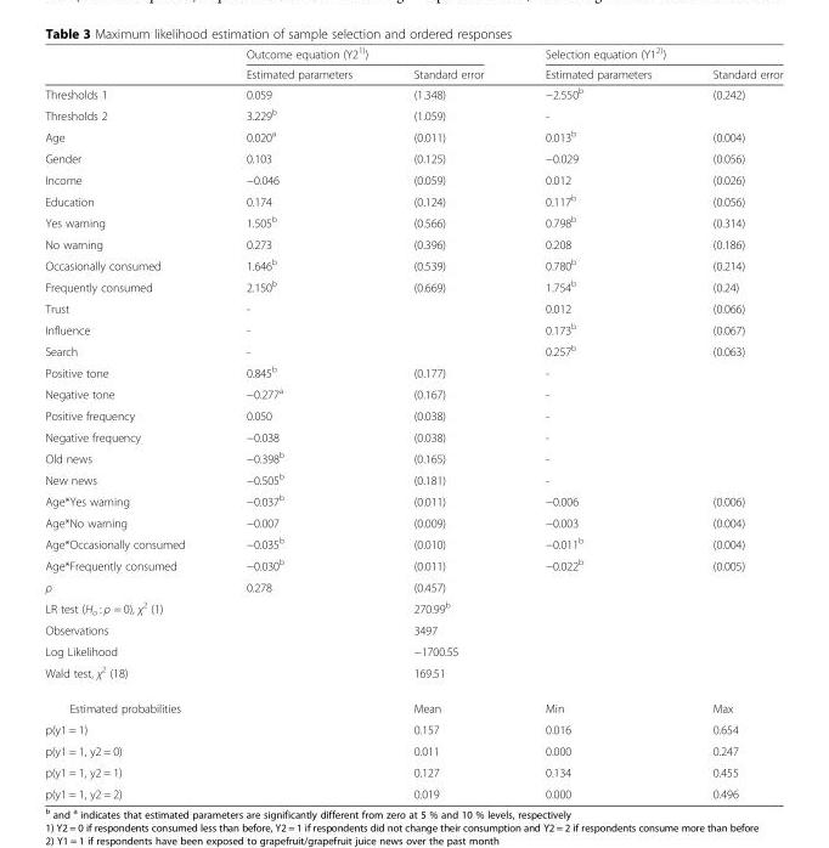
<table><thead><tr><td rowspan="2"></td><td colspan="2">Outcome equation (Y2<sup>1)</sup>)</td><td colspan="2">Selection equation (Y1<sup>2)</sup>)</td></tr><tr><td>Estimated parameters</td><td>Standard error</td><td>Estimated parameters</td><td>Standard error</td></tr></thead><tbody><tr><td>Thresholds 1</td><td>0.059</td><td>(1.348)</td><td>−2.550<sup>b</sup></td><td>(0.242)</td></tr><tr><td>Thresholds 2</td><td>3.229<sup>b</sup></td><td>(1.059)</td><td>-</td><td></td></tr><tr><td>Age</td><td>0.020<sup>a</sup></td><td>(0.011)</td><td>0.013<sup>b</sup></td><td>(0.004)</td></tr><tr><td>Gender</td><td>0.103</td><td>(0.125)</td><td>−0.029</td><td>(0.056)</td></tr><tr><td>Income</td><td>−0.046</td><td>(0.059)</td><td>0.012</td><td>(0.026)</td></tr><tr><td>Education</td><td>0.174</td><td>(0.124)</td><td>0.117<sup>b</sup></td><td>(0.056)</td></tr><tr><td>Yes warning</td><td>1.505<sup>b</sup></td><td>(0.566)</td><td>0.798<sup>b</sup></td><td>(0.314)</td></tr><tr><td>No warning</td><td>0.273</td><td>(0.396)</td><td>0.208</td><td>(0.186)</td></tr><tr><td>Occasionally consumed</td><td>1.646<sup>b</sup></td><td>(0.539)</td><td>0.780<sup>b</sup></td><td>(0.214)</td></tr><tr><td>Frequently consumed</td><td>2.150<sup>b</sup></td><td>(0.669)</td><td>1.754<sup>b</sup></td><td>(0.24)</td></tr><tr><td>Trust</td><td>-</td><td></td><td>0.012</td><td>(0.066)</td></tr><tr><td>Influence</td><td>-</td><td></td><td>0.173<sup>b</sup></td><td>(0.067)</td></tr><tr><td>Search</td><td>-</td><td></td><td>0.257<sup>b</sup></td><td>(0.063)</td></tr><tr><td>Positive tone</td><td>0.845<sup>b</sup></td><td>(0.177)</td><td>-</td><td></td></tr><tr><td>Negative tone</td><td>−0.277<sup>a</sup></td><td>(0.167)</td><td>-</td><td></td></tr><tr><td>Positive frequency</td><td>0.050</td><td>(0.038)</td><td>-</td><td></td></tr><tr><td>Negative frequency</td><td>−0.038</td><td>(0.038)</td><td>-</td><td></td></tr><tr><td>Old news</td><td>−0.398<sup>b</sup></td><td>(0.165)</td><td>-</td><td></td></tr><tr><td>New news</td><td>−0.505<sup>b</sup></td><td>(0.181)</td><td>-</td><td></td></tr><tr><td>Age*Yes warning</td><td>−0.037<sup>b</sup></td><td>(0.011)</td><td>−0.006</td><td>(0.006)</td></tr><tr><td>Age*No warning</td><td>−0.007</td><td>(0.009)</td><td>−0.003</td><td>(0.004)</td></tr><tr><td>Age*Occasionally consumed</td><td>−0.035<sup>b</sup></td><td>(0.010)</td><td>−0.011<sup>b</sup></td><td>(0.004)</td></tr><tr><td>Age*Frequently consumed</td><td>−0.030<sup>b</sup></td><td>(0.011)</td><td>−0.022<sup>b</sup></td><td>(0.005)</td></tr><tr><td>ρ</td><td>0.278</td><td>(0.457)</td><td></td><td></td></tr><tr><td>LR test (H<sub>o</sub> : ρ = 0), χ<sup>2</sup> (1)</td><td></td><td colspan="3">270.99<sup>b</sup></td></tr><tr><td>Observations</td><td></td><td colspan="3">3497</td></tr><tr><td>Log Likelihood</td><td></td><td colspan="3">−1700.55</td></tr><tr><td>Wald test, χ<sup>2</sup> (18)</td><td></td><td colspan="3">169.51</td></tr><tr><td colspan="2">Estimated probabilities</td><td>Mean</td><td>Min</td><td>Max</td></tr><tr><td colspan="2">p(y1 = 1)</td><td>0.157</td><td>0.016</td><td>0.654</td></tr><tr><td colspan="2">p(y1 = 1, y2 = 0)</td><td>0.011</td><td>0.000</td><td>0.247</td></tr><tr><td colspan="2">p(y1 = 1, y2 = 1)</td><td>0.127</td><td>0.134</td><td>0.455</td></tr><tr><td colspan="2">p(y1 = 1, y2 = 2)</td><td>0.019</td><td>0.000</td><td>0.496</td></tr></tbody></table>